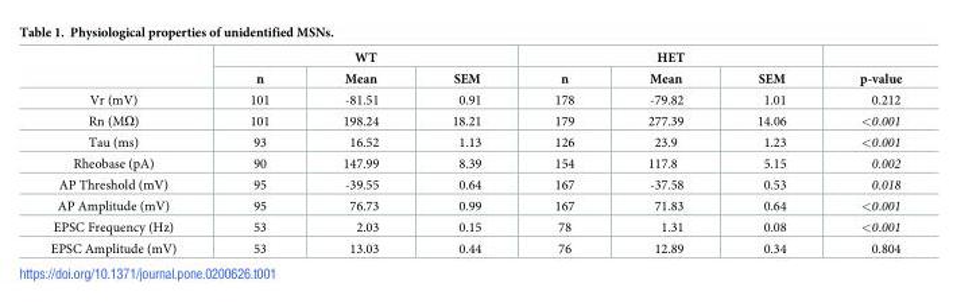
<table><thead><tr><td rowspan="2"></td><td colspan="3">WT</td><td colspan="3">HET</td><td rowspan="2">p-value</td></tr><tr><td>n</td><td>Mean</td><td>SEM</td><td>n</td><td>Mean</td><td>SEM</td></tr></thead><tbody><tr><td>Vr (mV)</td><td>101</td><td>-81.51</td><td>0.91</td><td>178</td><td>-79.82</td><td>1.01</td><td>0.212</td></tr><tr><td>Rn (MΩ)</td><td>101</td><td>198.24</td><td>18.21</td><td>179</td><td>277.39</td><td>14.06</td><td>&lt;0.001</td></tr><tr><td>Tau (ms)</td><td>93</td><td>16.52</td><td>1.13</td><td>126</td><td>23.9</td><td>1.23</td><td>&lt;0.001</td></tr><tr><td>Rheobase (pA)</td><td>90</td><td>147.99</td><td>8.39</td><td>154</td><td>117.8</td><td>5.15</td><td>0.002</td></tr><tr><td>AP Threshold (mV)</td><td>95</td><td>-39.55</td><td>0.64</td><td>167</td><td>-37.58</td><td>0.53</td><td>0.018</td></tr><tr><td>AP Amplitude (mV)</td><td>95</td><td>76.73</td><td>0.99</td><td>167</td><td>71.83</td><td>0.64</td><td>&lt;0.001</td></tr><tr><td>EPSC Frequency (Hz)</td><td>53</td><td>2.03</td><td>0.15</td><td>78</td><td>1.31</td><td>0.08</td><td>&lt;0.001</td></tr><tr><td>EPSC Amplitude (mV)</td><td>53</td><td>13.03</td><td>0.44</td><td>76</td><td>12.89</td><td>0.34</td><td>0.804</td></tr></tbody></table>